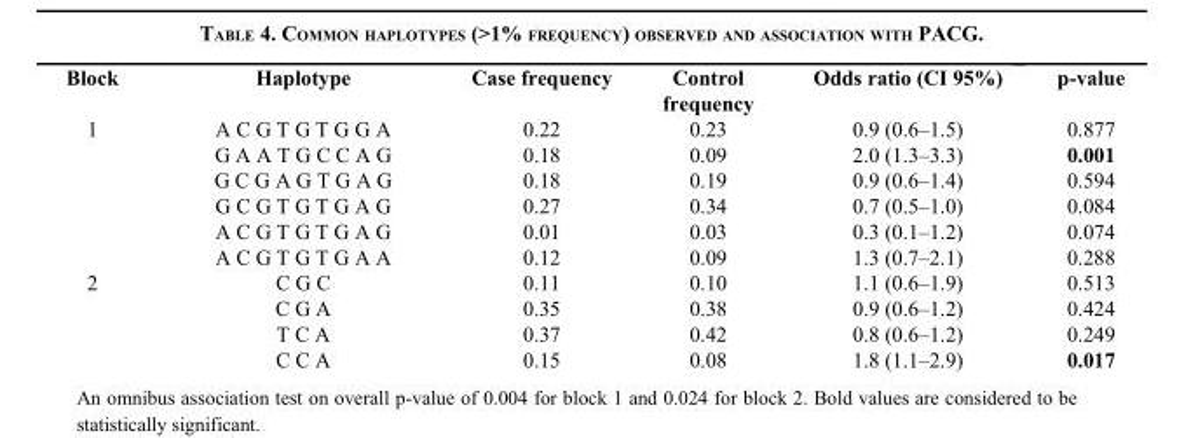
<table><thead><tr><td>Block</td><td>Haplotype</td><td>Case frequency</td><td>Control frequency</td><td>Odds ratio (CI 95%)</td><td>p-value</td></tr></thead><tbody><tr><td rowspan="6">1</td><td>A C G T G T G G A</td><td>0.22</td><td>0.23</td><td>0.9 (0.6–1.5)</td><td>0.877</td></tr><tr><td>G A A T G C C A G</td><td>0.18</td><td>0.09</td><td>2.0 (1.3–3.3)</td><td>0.001</td></tr><tr><td>G C G A G T G A G</td><td>0.18</td><td>0.19</td><td>0.9 (0.6–1.4)</td><td>0.594</td></tr><tr><td>G C G T G T G A G</td><td>0.27</td><td>0.34</td><td>0.7 (0.5–1.0)</td><td>0.084</td></tr><tr><td>A C G T G T G A G</td><td>0.01</td><td>0.03</td><td>0.3 (0.1–1.2)</td><td>0.074</td></tr><tr><td>A C G T G T G A A</td><td>0.12</td><td>0.09</td><td>1.3 (0.7–2.1)</td><td>0.288</td></tr><tr><td rowspan="4">2</td><td>C G C</td><td>0.11</td><td>0.10</td><td>1.1 (0.6–1.9)</td><td>0.513</td></tr><tr><td>C G A</td><td>0.35</td><td>0.38</td><td>0.9 (0.6–1.2)</td><td>0.424</td></tr><tr><td>T C A</td><td>0.37</td><td>0.42</td><td>0.8 (0.6–1.2)</td><td>0.249</td></tr><tr><td>C C A</td><td>0.15</td><td>0.08</td><td>1.8 (1.1–2.9)</td><td>0.017</td></tr></tbody></table>